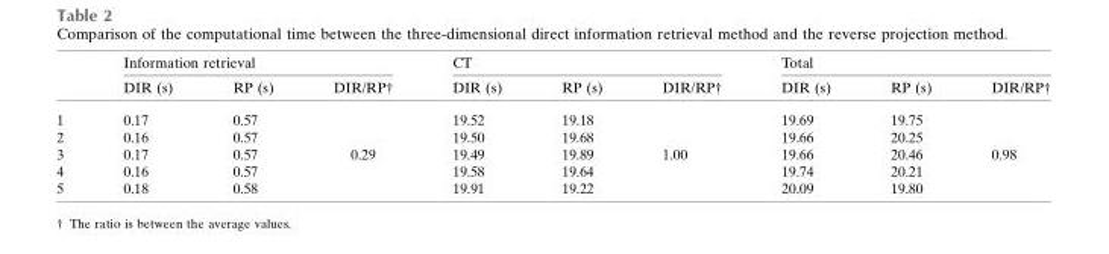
<table><thead><tr><td rowspan="2"></td><td colspan="3">Information retrieval</td><td colspan="3">CT</td><td colspan="3">Total</td></tr><tr><td>DIR (s)</td><td>RP (s)</td><td>DIR/RP†</td><td>DIR (s)</td><td>RP (s)</td><td>DIR/RP†</td><td>DIR (s)</td><td>RP (s)</td><td>DIR/RP†</td></tr></thead><tbody><tr><td>1</td><td>0.17</td><td>0.57</td><td rowspan="5">0.29</td><td>19.52</td><td>19.18</td><td rowspan="5">1.00</td><td>19.69</td><td>19.75</td><td rowspan="5">0.98</td></tr><tr><td>2</td><td>0.16</td><td>0.57</td><td>19.50</td><td>19.68</td><td>19.66</td><td>20.25</td></tr><tr><td>3</td><td>0.17</td><td>0.57</td><td>19.49</td><td>19.89</td><td>19.66</td><td>20.46</td></tr><tr><td>4</td><td>0.16</td><td>0.57</td><td>19.58</td><td>19.64</td><td>19.74</td><td>20.21</td></tr><tr><td>5</td><td>0.18</td><td>0.58</td><td>19.91</td><td>19.22</td><td>20.09</td><td>19.80</td></tr></tbody></table>